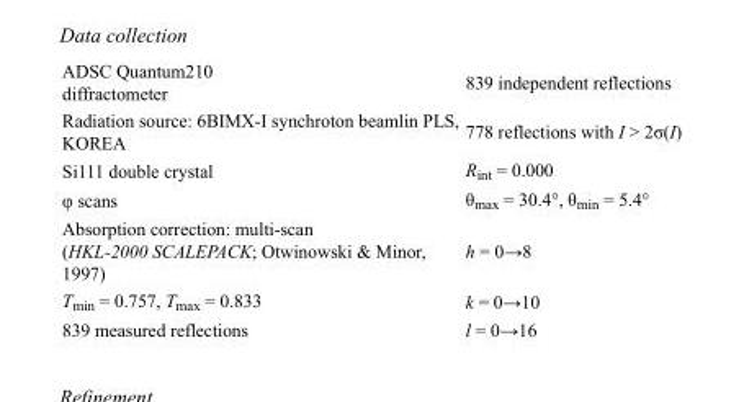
<table><tbody><tr><td>ADSC Quantum210 diffractometer</td><td>839 independent reflections</td></tr><tr><td>Radiation source: 6BIMX-I synchroton beamlin PLS, KOREA</td><td>778 reflections with I &gt; 2σ(I)</td></tr><tr><td>Si111 double crystal</td><td>R<sub>int</sub> = 0.000</td></tr><tr><td>φ scans</td><td>θ<sub>max</sub> = 30.4°, θ<sub>min</sub> = 5.4°</td></tr><tr><td>Absorption correction: multi-scan (HKL-2000 SCALEPACK; Otwinowski &amp; Minor, 1997)</td><td>h = 0→8</td></tr><tr><td>T<sub>min</sub> = 0.757, T<sub>max</sub> = 0.833</td><td>k = 0→10</td></tr><tr><td>839 measured reflections</td><td>l = 0→16</td></tr></tbody></table>